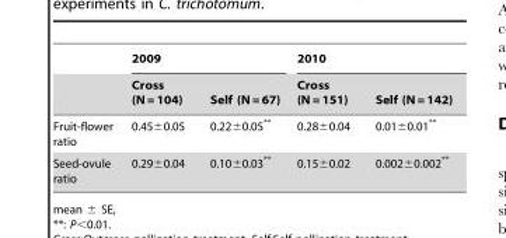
<table><thead><tr><td rowspan="2"></td><td colspan="2">2009</td><td colspan="2">2010</td></tr><tr><td>Cross (N = 104)</td><td>Self (N = 67)</td><td>Cross (N = 151)</td><td>Self (N = 142)</td></tr></thead><tbody><tr><td>Fruit-flower ratio</td><td>0.45±0.05</td><td>0.22±0.05**</td><td>0.28±0.04</td><td>0.01±0.01**</td></tr><tr><td>Seed-ovule ratio</td><td>0.29±0.04</td><td>0.10±0.03**</td><td>0.15±0.02</td><td>0.002±0.002**</td></tr></tbody></table>